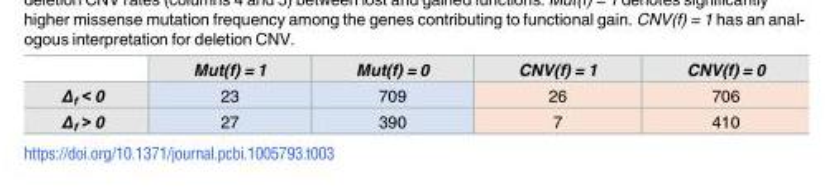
<table><thead><tr><td></td><td>Mut(f) = 1</td><td>Mut(f) = 0</td><td>CNV(f) = 1</td><td>CNV(f) = 0</td></tr></thead><tbody><tr><td>Δ<sub>f</sub> &lt; 0</td><td>23</td><td>709</td><td>26</td><td>706</td></tr><tr><td>Δ<sub>f</sub> &gt; 0</td><td>27</td><td>390</td><td>7</td><td>410</td></tr></tbody></table>